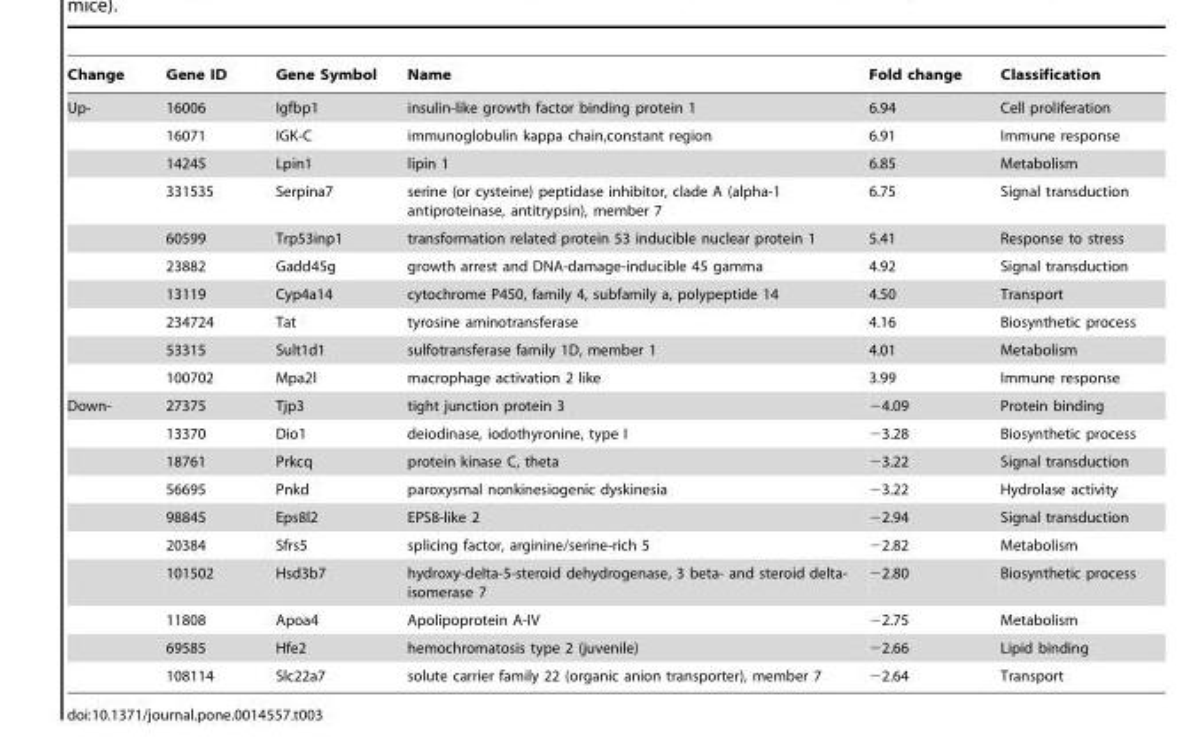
<table><thead><tr><td>Change</td><td>Gene ID</td><td>Gene Symbol</td><td>Name</td><td>Fold change</td><td>Classification</td></tr></thead><tbody><tr><td rowspan="10">Up-</td><td>16006</td><td>Igfbp1</td><td>insulin-like growth factor binding protein 1</td><td>6.94</td><td>Cell proliferation</td></tr><tr><td>16071</td><td>IGK-C</td><td>immunoglobulin kappa chain,constant region</td><td>6.91</td><td>Immune response</td></tr><tr><td>14245</td><td>Lpin1</td><td>lipin 1</td><td>6.85</td><td>Metabolism</td></tr><tr><td>331535</td><td>Serpina7</td><td>serine (or cysteine) peptidase inhibitor, clade A (alpha-1 antiproteinase, antitrypsin), member 7</td><td>6.75</td><td>Signal transduction</td></tr><tr><td>60599</td><td>Trp53inp1</td><td>transformation related protein 53 inducible nuclear protein 1</td><td>5.41</td><td>Response to stress</td></tr><tr><td>23882</td><td>Gadd45g</td><td>growth arrest and DNA-damage-inducible 45 gamma</td><td>4.92</td><td>Signal transduction</td></tr><tr><td>13119</td><td>Cyp4a14</td><td>cytochrome P450, family 4, subfamily a, polypeptide 14</td><td>4.50</td><td>Transport</td></tr><tr><td>234724</td><td>Tat</td><td>tyrosine aminotransferase</td><td>4.16</td><td>Biosynthetic process</td></tr><tr><td>53315</td><td>Sult1d1</td><td>sulfotransferase family 1D, member 1</td><td>4.01</td><td>Metabolism</td></tr><tr><td>100702</td><td>Mpa2l</td><td>macrophage activation 2 like</td><td>3.99</td><td>Immune response</td></tr><tr><td rowspan="10">Down-</td><td>27375</td><td>Tjp3</td><td>tight junction protein 3</td><td>−4.09</td><td>Protein binding</td></tr><tr><td>13370</td><td>Dio1</td><td>deiodinase, iodothyronine, type I</td><td>−3.28</td><td>Biosynthetic process</td></tr><tr><td>18761</td><td>Prkcq</td><td>protein kinase C, theta</td><td>−3.22</td><td>Signal transduction</td></tr><tr><td>56695</td><td>Pnkd</td><td>paroxysmal nonkinesiogenic dyskinesia</td><td>−3.22</td><td>Hydrolase activity</td></tr><tr><td>98845</td><td>Eps8l2</td><td>EPS8-like 2</td><td>−2.94</td><td>Signal transduction</td></tr><tr><td>20384</td><td>Sfrs5</td><td>splicing factor, arginine/serine-rich 5</td><td>−2.82</td><td>Metabolism</td></tr><tr><td>101502</td><td>Hsd3b7</td><td>hydroxy-delta-5-steroid dehydrogenase, 3 beta- and steroid delta- isomerase 7</td><td>−2.80</td><td>Biosynthetic process</td></tr><tr><td>11808</td><td>Apoa4</td><td>Apolipoprotein A-IV</td><td>−2.75</td><td>Metabolism</td></tr><tr><td>69585</td><td>Hfe2</td><td>hemochromatosis type 2 (juvenile)</td><td>−2.66</td><td>Lipid binding</td></tr><tr><td>108114</td><td>Slc22a7</td><td>solute carrier family 22 (organic anion transporter), member 7</td><td>−2.64</td><td>Transport</td></tr></tbody></table>